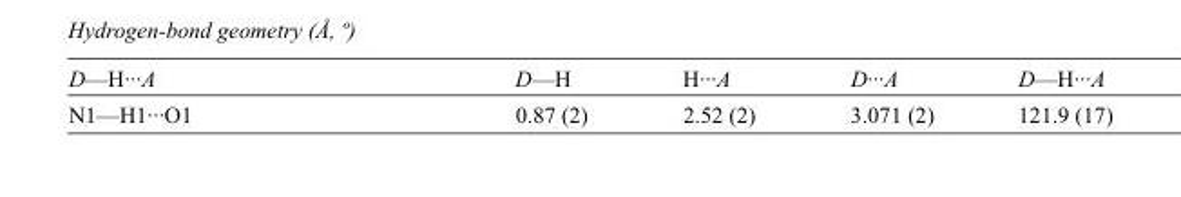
<table><tbody><tr><td>D—H···A</td><td>D—H</td><td>H···A</td><td>D···A</td><td>D—H···A</td></tr><tr><td>N1—H1···O1</td><td>0.87 (2)</td><td>2.52 (2)</td><td>3.071 (2)</td><td>121.9 (17)</td></tr></tbody></table>